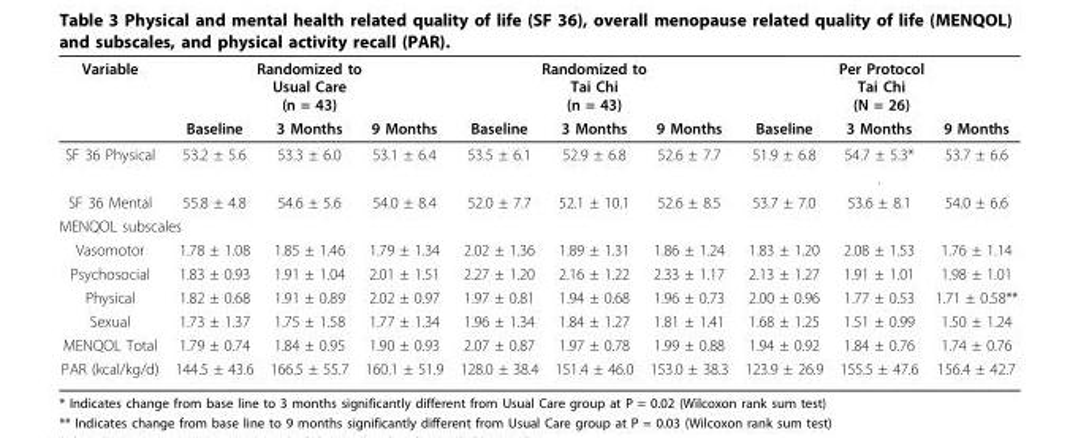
<table><thead><tr><td rowspan="2">Variable</td><td colspan="3">Randomized to Usual Care (n = 43)</td><td colspan="3">Randomized to Tai Chi (n = 43)</td><td colspan="3">Per Protocol Tai Chi (N = 26)</td></tr><tr><td>Baseline</td><td>3 Months</td><td>9 Months</td><td>Baseline</td><td>3 Months</td><td>9 Months</td><td>Baseline</td><td>3 Months</td><td>9 Months</td></tr></thead><tbody><tr><td rowspan="2">SF 36 Physical</td><td>53.2 ± 5.6</td><td>53.3 ± 6.0</td><td>53.1 ± 6.4</td><td>53.5 ± 6.1</td><td>52.9 ± 6.8</td><td>52.6 ± 7.7</td><td>51.9 ± 6.8</td><td>54.7 ± 5.3*</td><td>53.7 ± 6.6</td></tr><tr><td></td><td></td><td></td><td></td><td></td><td></td><td></td><td>.</td><td></td></tr><tr><td>SF 36 Mental</td><td>55.8 ± 4.8</td><td>54.6 ± 5.6</td><td>54.0 ± 8.4</td><td>52.0 ± 7.7</td><td>52.1 ± 10.1</td><td>52.6 ± 8.5</td><td>53.7 ± 7.0</td><td>53.6 ± 8.1</td><td>54.0 ± 6.6</td></tr><tr><td colspan="10">MENQOL subscales</td></tr><tr><td>Vasomotor</td><td>1.78 ± 1.08</td><td>1.85 ± 1.46</td><td>1.79 ± 1.34</td><td>2.02 ± 1.36</td><td>1.89 ± 1.31</td><td>1.86 ± 1.24</td><td>1.83 ± 1.20</td><td>2.08 ± 1.53</td><td>1.76 ± 1.14</td></tr><tr><td>Psychosocial</td><td>1.83 ± 0.93</td><td>1.91 ± 1.04</td><td>2.01 ± 1.51</td><td>2.27 ± 1.20</td><td>2.16 ± 1.22</td><td>2.33 ± 1.17</td><td>2.13 ± 1.27</td><td>1.91 ± 1.01</td><td>1.98 ± 1.01</td></tr><tr><td>Physical</td><td>1.82 ± 0.68</td><td>1.91 ± 0.89</td><td>2.02 ± 0.97</td><td>1.97 ± 0.81</td><td>1.94 ± 0.68</td><td>1.96 ± 0.73</td><td>2.00 ± 0.96</td><td>1.77 ± 0.53</td><td>1.71 ± 0.58**</td></tr><tr><td>Sexual</td><td>1.73 ± 1.37</td><td>1.75 ± 1.58</td><td>1.77 ± 1.34</td><td>1.96 ± 1.34</td><td>1.84 ± 1.27</td><td>1.81 ± 1.41</td><td>1.68 ± 1.25</td><td>1.51 ± 0.99</td><td>1.50 ± 1.24</td></tr><tr><td>MENQOL Total</td><td>1.79 ± 0.74</td><td>1.84 ± 0.95</td><td>1.90 ± 0.93</td><td>2.07 ± 0.87</td><td>1.97 ± 0.78</td><td>1.99 ± 0.88</td><td>1.94 ± 0.92</td><td>1.84 ± 0.76</td><td>1.74 ± 0.76</td></tr><tr><td>PAR (kcal/kg/d)</td><td>144.5 ± 43.6</td><td>166.5 ± 55.7</td><td>160.1 ± 51.9</td><td>128.0 ± 38.4</td><td>151.4 ± 46.0</td><td>153.0 ± 38.3</td><td>123.9 ± 26.9</td><td>155.5 ± 47.6</td><td>156.4 ± 42.7</td></tr></tbody></table>